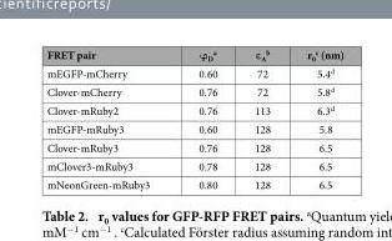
<table><thead><tr><td>FRET pair</td><td>ϕ<sub>D</sub> <sup>a</sup></td><td>ε<sub>A</sub> <sup>b</sup></td><td>r<sub>0</sub> <sup>c</sup> (nm)</td></tr></thead><tbody><tr><td>mEGFP-mCherry</td><td>0.60</td><td>72</td><td>5.4<sup>d</sup></td></tr><tr><td>Clover-mCherry</td><td>0.76</td><td>72</td><td>5.8<sup>d</sup></td></tr><tr><td>Clover-mRuby2</td><td>0.76</td><td>113</td><td>6.3<sup>d</sup></td></tr><tr><td>mEGFP-mRuby3</td><td>0.60</td><td>128</td><td>5.8</td></tr><tr><td>Clover-mRuby3</td><td>0.76</td><td>128</td><td>6.5</td></tr><tr><td>mClover3-mRuby3</td><td>0.78</td><td>128</td><td>6.5</td></tr><tr><td>mNeonGreen-mRuby3</td><td>0.80</td><td>128</td><td>6.5</td></tr></tbody></table>